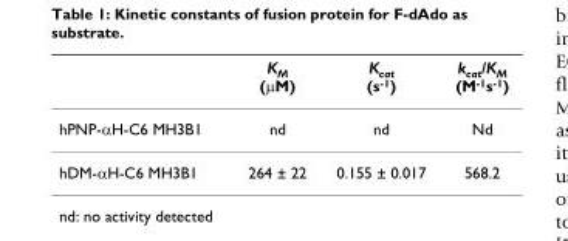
<table><thead><tr><td></td><td>K<sub>M</sub> (μM)</td><td>K<sub>cat</sub> (s<sup>-1</sup>)</td><td>k<sub>cat</sub>/K<sub>M</sub> (M<sup>-1</sup>s<sup>-1</sup>)</td></tr></thead><tbody><tr><td>hPNP-αH-C6 MH3B1</td><td>nd</td><td>nd</td><td>Nd</td></tr><tr><td>hDM-αH-C6 MH3B1</td><td>264 ± 22</td><td>0.155 ± 0.017</td><td>568.2</td></tr></tbody></table>